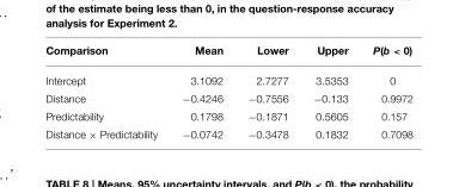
<table><thead><tr><td>Comparison</td><td>Mean</td><td>Lower</td><td>Upper</td><td>P(b &lt; 0)</td></tr></thead><tbody><tr><td>Intercept</td><td>3.1092</td><td>2.7277</td><td>3.5353</td><td>0</td></tr><tr><td>Distance</td><td>−0.4246</td><td>−0.7556</td><td>−0.133</td><td>0.9972</td></tr><tr><td>Predictability</td><td>0.1798</td><td>−0.1871</td><td>0.5605</td><td>0.157</td></tr><tr><td>Distance × Predictability</td><td>−0.0742</td><td>−0.3478</td><td>0.1832</td><td>0.7098</td></tr></tbody></table>